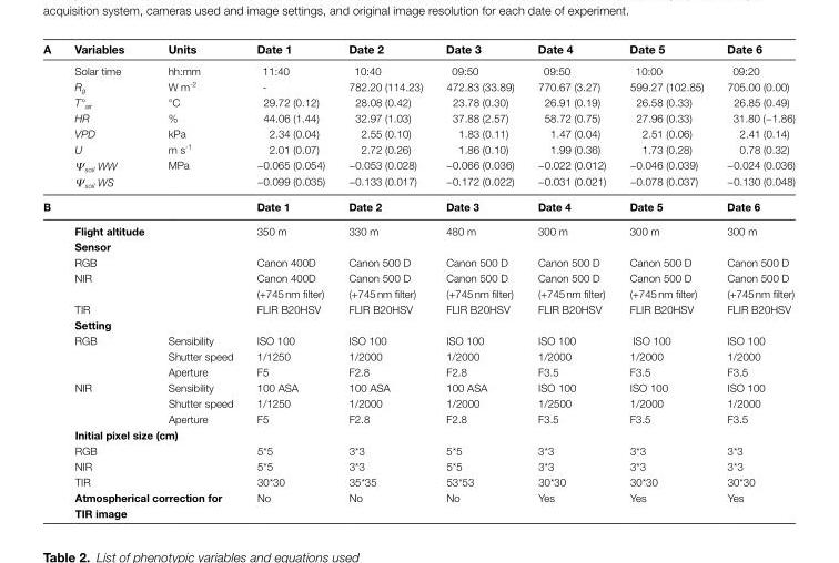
<table><thead><tr><td>A</td><td>Variables</td><td>Units</td><td>Date 1</td><td>Date 2</td><td>Date 3</td><td>Date 4</td><td>Date 5</td><td>Date 6</td></tr></thead><tbody><tr><td></td><td>Solar time</td><td>hh:mm</td><td>11:40</td><td>10:40</td><td>09:50</td><td>09:50</td><td>10:00</td><td>09:20</td></tr><tr><td></td><td>R<sub>g</sub></td><td>W m<sup>-2</sup></td><td>-</td><td>782.20 (114.23)</td><td>472.83 (33.89)</td><td>770.67 (3.27)</td><td>599.27 (102.85)</td><td>705.00 (0.00)</td></tr><tr><td></td><td>T°<sub>air</sub></td><td>°C</td><td>29.72 (0.12)</td><td>28.08 (0.42)</td><td>23.78 (0.30)</td><td>26.91 (0.19)</td><td>26.58 (0.33)</td><td>26.85 (0.49)</td></tr><tr><td></td><td>HR</td><td>%</td><td>44.06 (1.44)</td><td>32.97 (1.03)</td><td>37.88 (2.57)</td><td>58.72 (0.75)</td><td>27.96 (0.33)</td><td>31.80 (−1.86)</td></tr><tr><td></td><td>VPD</td><td>kPa</td><td>2.34 (0.04)</td><td>2.55 (0.10)</td><td>1.83 (0.11)</td><td>1.47 (0.04)</td><td>2.51 (0.06)</td><td>2.41 (0.14)</td></tr><tr><td></td><td>U</td><td>m s<sup>-1</sup></td><td>2.01 (0.07)</td><td>2.72 (0.26)</td><td>1.86 (0.10)</td><td>1.99 (0.36)</td><td>1.73 (0.28)</td><td>0.78 (0.32)</td></tr><tr><td></td><td>Ψ<sub>soil</sub> WW</td><td rowspan="2">MPa</td><td>−0.065 (0.054)</td><td>−0.053 (0.028)</td><td>−0.066 (0.036)</td><td>−0.022 (0.012)</td><td>−0.046 (0.039)</td><td>−0.024 (0.036)</td></tr><tr><td></td><td>Ψ<sub>soil</sub> WS</td><td>−0.099 (0.035)</td><td>−0.133 (0.017)</td><td>−0.172 (0.022)</td><td>−0.031 (0.021)</td><td>−0.078 (0.037)</td><td>−0.130 (0.048)</td></tr><tr><td rowspan="18">B</td><td></td><td></td><td>Date 1</td><td>Date 2</td><td>Date 3</td><td>Date 4</td><td>Date 5</td><td>Date 6</td></tr><tr><td>Flight altitude</td><td></td><td>350 m</td><td>330 m</td><td>480 m</td><td>300 m</td><td>300 m</td><td>300 m</td></tr><tr><td colspan="8">Sensor</td></tr><tr><td>RGB</td><td></td><td>Canon 400D</td><td>Canon 500 D</td><td>Canon 500 D</td><td>Canon 500 D</td><td>Canon 500 D</td><td>Canon 500 D</td></tr><tr><td>NIR</td><td></td><td>Canon 400D (+745 nm filter)</td><td>Canon 500 D (+745 nm filter)</td><td>Canon 500 D (+745 nm filter)</td><td>Canon 500 D (+745 nm filter)</td><td>Canon 500 D (+745 nm filter)</td><td>Canon 500 D (+745 nm filter)</td></tr><tr><td>TIR</td><td></td><td>FLIR B20HSV</td><td>FLIR B20HSV</td><td>FLIR B20HSV</td><td>FLIR B20HSV</td><td>FLIR B20HSV</td><td>FLIR B20HSV</td></tr><tr><td colspan="8">Setting</td></tr><tr><td>RGB</td><td>Sensibility</td><td>ISO 100</td><td>ISO 100</td><td>ISO 100</td><td>ISO 100</td><td>ISO 100</td><td>ISO 100</td></tr><tr><td></td><td>Shutter speed</td><td>1/1250</td><td>1/2000</td><td>1/2000</td><td>1/2000</td><td>1/2000</td><td>1/2000</td></tr><tr><td></td><td>Aperture</td><td>F5</td><td>F2.8</td><td>F2.8</td><td>F3.5</td><td>F3.5</td><td>F3.5</td></tr><tr><td>NIR</td><td>Sensibility</td><td>100 ASA</td><td>100 ASA</td><td>100 ASA</td><td>ISO 100</td><td>ISO 100</td><td>ISO 100</td></tr><tr><td></td><td>Shutter speed</td><td>1/1250</td><td>1/2000</td><td>1/2000</td><td>1/2500</td><td>1/2000</td><td>1/2000</td></tr><tr><td></td><td>Aperture</td><td>F5</td><td>F2.8</td><td>F2.8</td><td>F3.5</td><td>F3.5</td><td>F3.5</td></tr><tr><td colspan="8">Initial pixel size (cm)</td></tr><tr><td>RGB</td><td></td><td>5*5</td><td>3*3</td><td>5*5</td><td>3*3</td><td>3*3</td><td>3*3</td></tr><tr><td>NIR</td><td></td><td>5*5</td><td>3*3</td><td>5*5</td><td>3*3</td><td>3*3</td><td>3*3</td></tr><tr><td>TIR</td><td></td><td>30*30</td><td>35*35</td><td>53*53</td><td>30*30</td><td>30*30</td><td>30*30</td></tr><tr><td colspan="2">Atmospherical correction for TIR image</td><td>No</td><td>No</td><td>No</td><td>Yes</td><td>Yes</td><td>Yes</td></tr></tbody></table>